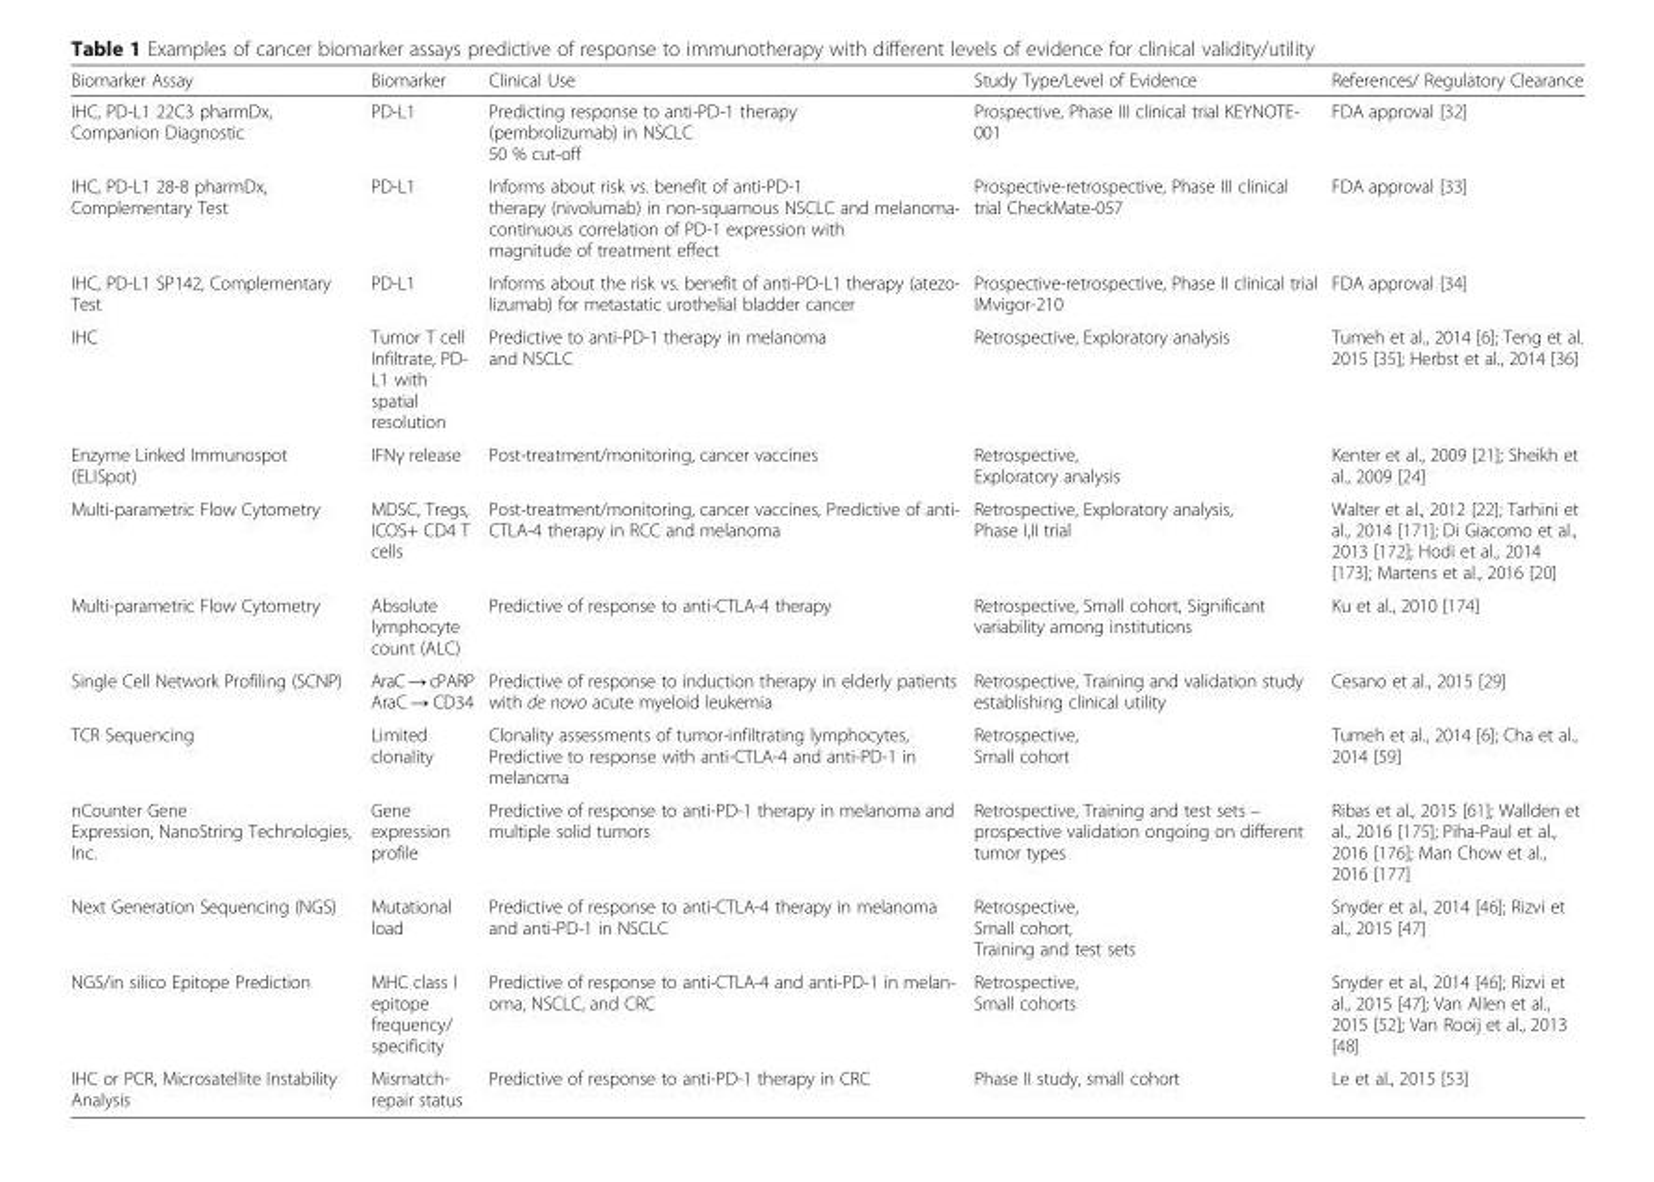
<table><thead><tr><td>Biomarker Assay</td><td>Biomarker</td><td>Clinical Use</td><td>Study Type/Level of Evidence</td><td>References/ Regulatory Clearance</td></tr></thead><tbody><tr><td>IHC, PD-L1 22C3 pharmDx, Companion Diagnostic</td><td>PD-L1</td><td>Predicting response to anti-PD-1 therapy (pembrolizumab) in NSCLC 50 % cut-off</td><td>Prospective, Phase III clinical trial KEYNOTE- 001</td><td>FDA approval [32]</td></tr><tr><td>IHC, PD-L1 28-8 pharmDx, Complementary Test</td><td>PD-L1</td><td>Informs about risk vs. benefit of anti-PD-1 therapy (nivolumab) in non-squamous NSCLC and melanoma- continuous correlation of PD-1 expression with magnitude of treatment effect</td><td>Prospective-retrospective, Phase III clinical trial CheckMate-057</td><td>FDA approval [33]</td></tr><tr><td>IHC, PD-L1 SP142, Complementary Test</td><td>PD-L1</td><td>Informs about the risk vs. benefit of anti-PD-L1 therapy (atezo- lizumab) for metastatic urothelial bladder cancer</td><td>Prospective-retrospective, Phase II clinical trial IMvigor-210</td><td>FDA approval [34]</td></tr><tr><td>IHC</td><td>Tumor T cell Infiltrate, PD- L1 with spatial resolution</td><td>Predictive to anti-PD-1 therapy in melanoma and NSCLC</td><td>Retrospective, Exploratory analysis</td><td>Tumeh et al., 2014 [6]; Teng et al. 2015 [35]; Herbst et al., 2014 [36]</td></tr><tr><td>Enzyme Linked Immunospot (ELISpot)</td><td>IFNγ release</td><td>Post-treatment/monitoring, cancer vaccines</td><td>Retrospective, Exploratory analysis</td><td>Kenter et al., 2009 [21]; Sheikh et al., 2009 [24]</td></tr><tr><td>Multi-parametric Flow Cytometry</td><td>MDSC, Tregs, ICOS+ CD4 T cells</td><td>Post-treatment/monitoring, cancer vaccines, Predictive of anti- CTLA-4 therapy in RCC and melanoma</td><td>Retrospective, Exploratory analysis, Phase I,II trial</td><td>Walter et al., 2012 [22]; Tarhini et al., 2014 [171]; Di Giacomo et al., 2013 [172]; Hodi et al., 2014 [173]; Martens et al., 2016 [20]</td></tr><tr><td>Multi-parametric Flow Cytometry</td><td>Absolute lymphocyte count (ALC)</td><td>Predictive of response to anti-CTLA-4 therapy</td><td>Retrospective, Small cohort, Significant variability among institutions</td><td>Ku et al., 2010 [174]</td></tr><tr><td>Single Cell Network Profiling (SCNP)</td><td>AraC → cPARP AraC → CD34</td><td>Predictive of response to induction therapy in elderly patients with de novo acute myeloid leukemia</td><td>Retrospective, Training and validation study establishing clinical utility</td><td>Cesano et al., 2015 [29]</td></tr><tr><td>TCR Sequencing</td><td>Limited clonality</td><td>Clonality assessments of tumor-infiltrating lymphocytes, Predictive to response with anti-CTLA-4 and anti-PD-1 in melanoma</td><td>Retrospective, Small cohort</td><td>Tumeh et al., 2014 [6]; Cha et al., 2014 [59]</td></tr><tr><td>nCounter Gene Expression, NanoString Technologies, Inc.</td><td>Gene expression profile</td><td>Predictive of response to anti-PD-1 therapy in melanoma and multiple solid tumors</td><td>Retrospective, Training and test sets – prospective validation ongoing on different tumor types</td><td>Ribas et al., 2015 [61]; Wallden et al., 2016 [175]; Piha-Paul et al., 2016 [176]; Man Chow et al., 2016 [177]</td></tr><tr><td>Next Generation Sequencing (NGS)</td><td>Mutational load</td><td>Predictive of response to anti-CTLA-4 therapy in melanoma and anti-PD-1 in NSCLC</td><td>Retrospective, Small cohort, Training and test sets</td><td>Snyder et al., 2014 [46]; Rizvi et al., 2015 [47]</td></tr><tr><td>NGS/in silico Epitope Prediction</td><td>MHC class I epitope frequency/ specificity</td><td>Predictive of response to anti-CTLA-4 and anti-PD-1 in melan- oma, NSCLC, and CRC</td><td>Retrospective, Small cohorts</td><td>Snyder et al., 2014 [46]; Rizvi et al., 2015 [47]; Van Allen et al., 2015 [52]; Van Rooij et al., 2013 [48]</td></tr><tr><td>IHC or PCR, Microsatellite Instability Analysis</td><td>Mismatch- repair status</td><td>Predictive of response to anti-PD-1 therapy in CRC</td><td>Phase II study, small cohort</td><td>Le et al., 2015 [53]</td></tr></tbody></table>